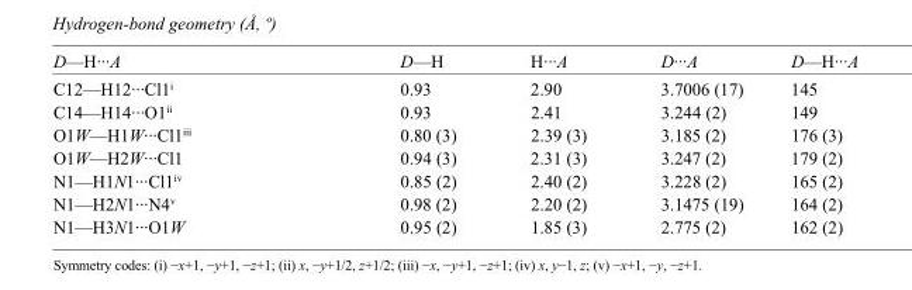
<table><tbody><tr><td>D—H···A</td><td>D—H</td><td>H···A</td><td>D···A</td><td>D—H···A</td></tr><tr><td>C12—H12···Cl1<sup>i</sup></td><td>0.93</td><td>2.90</td><td>3.7006 (17)</td><td>145</td></tr><tr><td>C14—H14···O1<sup>ii</sup></td><td>0.93</td><td>2.41</td><td>3.244 (2)</td><td>149</td></tr><tr><td>O1W—H1W···Cl1<sup>iii</sup></td><td>0.80 (3)</td><td>2.39 (3)</td><td>3.185 (2)</td><td>176 (3)</td></tr><tr><td>O1W—H2W···Cl1</td><td>0.94 (3)</td><td>2.31 (3)</td><td>3.247 (2)</td><td>179 (2)</td></tr><tr><td>N1—H1N1···Cl1<sup>iv</sup></td><td>0.85 (2)</td><td>2.40 (2)</td><td>3.228 (2)</td><td>165 (2)</td></tr><tr><td>N1—H2N1···N4<sup>v</sup></td><td>0.98 (2)</td><td>2.20 (2)</td><td>3.1475 (19)</td><td>164 (2)</td></tr><tr><td>N1—H3N1···O1W</td><td>0.95 (2)</td><td>1.85 (3)</td><td>2.775 (2)</td><td>162 (2)</td></tr></tbody></table>